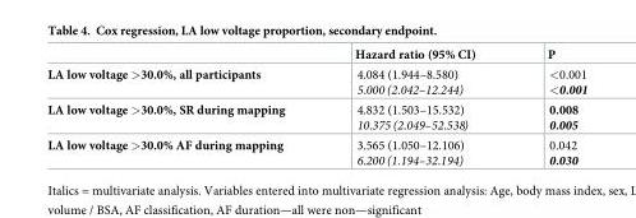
<table><thead><tr><td></td><td>Hazard ratio (95% CI)</td><td>P</td></tr></thead><tbody><tr><td>LA low voltage &gt;30.0%, all participants</td><td>4.084 (1.944–8.580) 5.000 (2.042–12.244)</td><td>&lt;0.001 &lt;0.001</td></tr><tr><td>LA low voltage &gt;30.0%, SR during mapping</td><td>4.832 (1.503–15.532) 10.375 (2.049–52.538)</td><td>0.008 0.005</td></tr><tr><td>LA low voltage &gt;30.0% AF during mapping</td><td>3.565 (1.050–12.106) 6.200 (1.194–32.194)</td><td>0.042 0.030</td></tr></tbody></table>